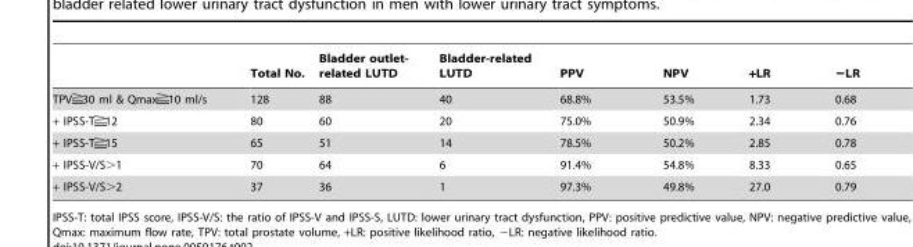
<table><thead><tr><td></td><td>Total No.</td><td>Bladder outlet- related LUTD</td><td>Bladder-related LUTD</td><td>PPV</td><td>NPV</td><td>+LR</td><td>−LR</td></tr></thead><tbody><tr><td>TPV 30 ml &amp; Qmax 10 ml/s</td><td>128</td><td>88</td><td>40</td><td>68.8%</td><td>53.5%</td><td>1.73</td><td>0.68</td></tr><tr><td>+ IPSS-T 12</td><td>80</td><td>60</td><td>20</td><td>75.0%</td><td>50.9%</td><td>2.34</td><td>0.76</td></tr><tr><td>+ IPSS-T 15</td><td>65</td><td>51</td><td>14</td><td>78.5%</td><td>50.2%</td><td>2.85</td><td>0.78</td></tr><tr><td>+ IPSS-V/S&gt;1</td><td>70</td><td>64</td><td>6</td><td>91.4%</td><td>54.8%</td><td>8.33</td><td>0.65</td></tr><tr><td>+ IPSS-V/S&gt;2</td><td>37</td><td>36</td><td>1</td><td>97.3%</td><td>49.8%</td><td>27.0</td><td>0.79</td></tr></tbody></table>